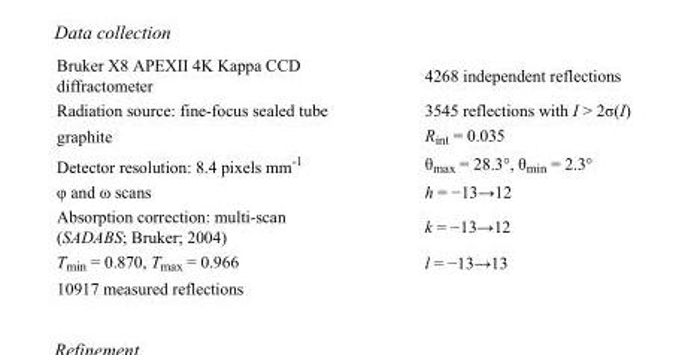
<table><tbody><tr><td>Bruker X8 APEXII 4K Kappa CCD diffractometer</td><td>4268 independent reflections</td></tr><tr><td>Radiation source: fine-focus sealed tube</td><td>3545 reflections with I &gt; 2σ(I)</td></tr><tr><td>graphite</td><td>R<sub>int</sub> = 0.035</td></tr><tr><td>Detector resolution: 8.4 pixels mm<sup>-1</sup></td><td>θ<sub>max</sub> = 28.3°, θ<sub>min</sub> = 2.3°</td></tr><tr><td>φ and ω scans</td><td>h = −13→12</td></tr><tr><td>Absorption correction: multi-scan (SADABS; Bruker; 2004)</td><td>k = −13→12</td></tr><tr><td>T<sub>min</sub> = 0.870, T<sub>max</sub> = 0.966</td><td>l = −13→13</td></tr><tr><td>10917 measured reflections</td><td></td></tr></tbody></table>